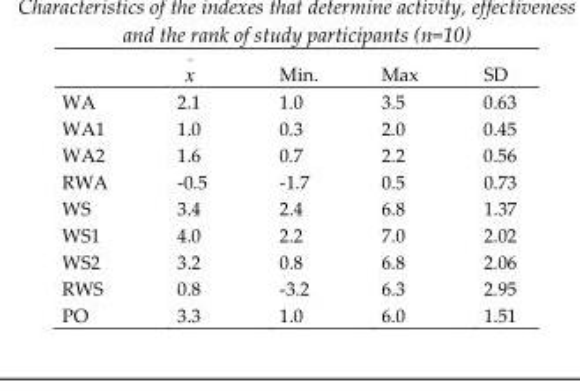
<table><thead><tr><td></td><td>x</td><td>Min.</td><td>Max</td><td>SD</td></tr></thead><tbody><tr><td>WA</td><td>2.1</td><td>1.0</td><td>3.5</td><td>0.63</td></tr><tr><td>WA1</td><td>1.0</td><td>0.3</td><td>2.0</td><td>0.45</td></tr><tr><td>WA2</td><td>1.6</td><td>0.7</td><td>2.2</td><td>0.56</td></tr><tr><td>RWA</td><td>-0.5</td><td>-1.7</td><td>0.5</td><td>0.73</td></tr><tr><td>WS</td><td>3.4</td><td>2.4</td><td>6.8</td><td>1.37</td></tr><tr><td>WS1</td><td>4.0</td><td>2.2</td><td>7.0</td><td>2.02</td></tr><tr><td>WS2</td><td>3.2</td><td>0.8</td><td>6.8</td><td>2.06</td></tr><tr><td>RWS</td><td>0.8</td><td>-3.2</td><td>6.3</td><td>2.95</td></tr><tr><td>PO</td><td>3.3</td><td>1.0</td><td>6.0</td><td>1.51</td></tr></tbody></table>